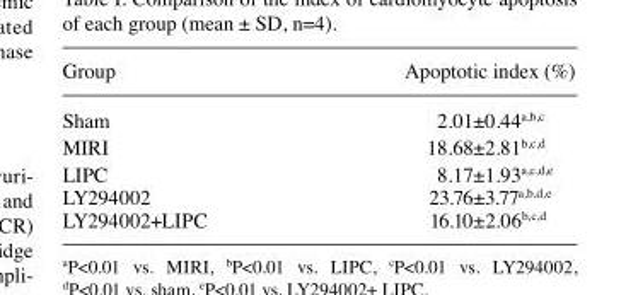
<table><thead><tr><td>Group</td><td>Apoptotic index (%)</td></tr></thead><tbody><tr><td>Sham</td><td>2.01±0.44<sup>a,b,c</sup></td></tr><tr><td>MIRI</td><td>18.68±2.81<sup>b,c,d</sup></td></tr><tr><td>LIPC</td><td>8.17±1.93<sup>a,c,d,e</sup></td></tr><tr><td>LY294002</td><td>23.76±3.77<sup>a,b,d,e</sup></td></tr><tr><td>LY294002+LIPC</td><td>16.10±2.06<sup>b,c,d</sup></td></tr></tbody></table>